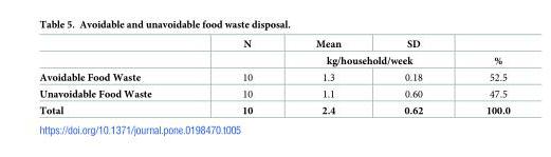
<table><thead><tr><td rowspan="2"></td><td rowspan="2">N</td><td>Mean</td><td>SD</td><td rowspan="2">%</td></tr><tr><td colspan="2">kg/household/week</td></tr></thead><tbody><tr><td>Avoidable Food Waste</td><td>10</td><td>1.3</td><td>0.18</td><td>52.5</td></tr><tr><td>Unavoidable Food Waste</td><td>10</td><td>1.1</td><td>0.60</td><td>47.5</td></tr><tr><td>Total</td><td>10</td><td>2.4</td><td>0.62</td><td>100.0</td></tr></tbody></table>